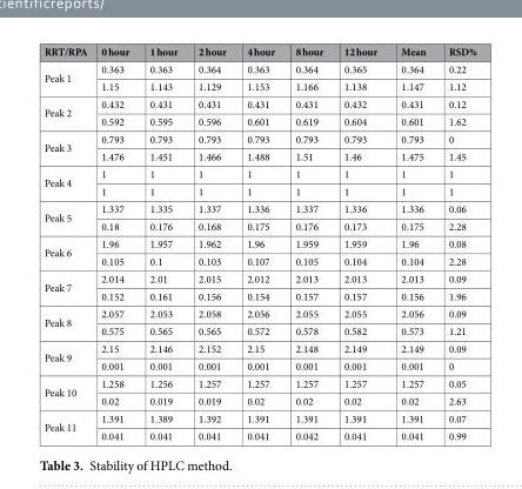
<table><thead><tr><td>RRT/RPA</td><td>0 hour</td><td>1 hour</td><td>2 hour</td><td>4 hour</td><td>8 hour</td><td>12 hour</td><td>Mean</td><td>RSD%</td></tr></thead><tbody><tr><td rowspan="2">Peak 1</td><td>0.363</td><td>0.363</td><td>0.364</td><td>0.363</td><td>0.364</td><td>0.365</td><td>0.364</td><td>0.22</td></tr><tr><td>1.15</td><td>1.143</td><td>1.129</td><td>1.153</td><td>1.166</td><td>1.138</td><td>1.147</td><td>1.12</td></tr><tr><td rowspan="2">Peak 2</td><td>0.432</td><td>0.431</td><td>0.431</td><td>0.431</td><td>0.431</td><td>0.432</td><td>0.431</td><td>0.12</td></tr><tr><td>0.592</td><td>0.595</td><td>0.596</td><td>0.601</td><td>0.619</td><td>0.604</td><td>0.601</td><td>1.62</td></tr><tr><td rowspan="2">Peak 3</td><td>0.793</td><td>0.793</td><td>0.793</td><td>0.793</td><td>0.793</td><td>0.793</td><td>0.793</td><td>0</td></tr><tr><td>1.476</td><td>1.451</td><td>1.466</td><td>1.488</td><td>1.51</td><td>1.46</td><td>1.475</td><td>1.45</td></tr><tr><td rowspan="2">Peak 4</td><td>1</td><td>1</td><td>1</td><td>1</td><td>1</td><td>1</td><td>1</td><td>1</td></tr><tr><td>1</td><td>1</td><td>1</td><td>1</td><td>1</td><td>1</td><td>1</td><td>1</td></tr><tr><td rowspan="2">Peak 5</td><td>1.337</td><td>1.335</td><td>1.337</td><td>1.336</td><td>1.337</td><td>1.336</td><td>1.336</td><td>0.06</td></tr><tr><td>0.18</td><td>0.176</td><td>0.168</td><td>0.175</td><td>0.176</td><td>0.173</td><td>0.175</td><td>2.28</td></tr><tr><td rowspan="2">Peak 6</td><td>1.96</td><td>1.957</td><td>1.962</td><td>1.96</td><td>1.959</td><td>1.959</td><td>1.96</td><td>0.08</td></tr><tr><td>0.105</td><td>0.1</td><td>0.103</td><td>0.107</td><td>0.105</td><td>0.104</td><td>0.104</td><td>2.28</td></tr><tr><td rowspan="2">Peak 7</td><td>2.014</td><td>2.01</td><td>2.015</td><td>2.012</td><td>2.013</td><td>2.013</td><td>2.013</td><td>0.09</td></tr><tr><td>0.152</td><td>0.161</td><td>0.156</td><td>0.154</td><td>0.157</td><td>0.157</td><td>0.156</td><td>1.96</td></tr><tr><td rowspan="2">Peak 8</td><td>2.057</td><td>2.053</td><td>2.058</td><td>2.056</td><td>2.055</td><td>2.055</td><td>2.056</td><td>0.09</td></tr><tr><td>0.575</td><td>0.565</td><td>0.565</td><td>0.572</td><td>0.578</td><td>0.582</td><td>0.573</td><td>1.21</td></tr><tr><td rowspan="2">Peak 9</td><td>2.15</td><td>2.146</td><td>2.152</td><td>2.15</td><td>2.148</td><td>2.149</td><td>2.149</td><td>0.09</td></tr><tr><td>0.001</td><td>0.001</td><td>0.001</td><td>0.001</td><td>0.001</td><td>0.001</td><td>0.001</td><td>0</td></tr><tr><td rowspan="2">Peak 10</td><td>1.258</td><td>1.256</td><td>1.257</td><td>1.257</td><td>1.257</td><td>1.257</td><td>1.257</td><td>0.05</td></tr><tr><td>0.02</td><td>0.019</td><td>0.019</td><td>0.02</td><td>0.02</td><td>0.02</td><td>0.02</td><td>2.63</td></tr><tr><td rowspan="2">Peak 11</td><td>1.391</td><td>1.389</td><td>1.392</td><td>1.391</td><td>1.391</td><td>1.391</td><td>1.391</td><td>0.07</td></tr><tr><td>0.041</td><td>0.041</td><td>0.041</td><td>0.041</td><td>0.042</td><td>0.041</td><td>0.041</td><td>0.99</td></tr></tbody></table>